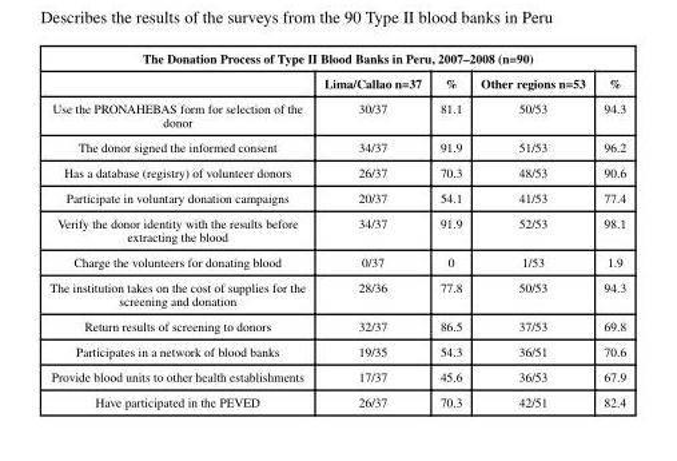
<table><thead><tr><td colspan="5">The Donation Process of Type II Blood Banks in Peru, 2007–2008 (n=90)</td></tr><tr><td></td><td>Lima/Callao n=37</td><td>%</td><td>Other regions n=53</td><td>%</td></tr></thead><tbody><tr><td>Use the PRONAHEBAS form for selection of the donor</td><td>30/37</td><td>81.1</td><td>50/53</td><td>94.3</td></tr><tr><td>The donor signed the informed consent</td><td>34/37</td><td>91.9</td><td>51/53</td><td>96.2</td></tr><tr><td>Has a database (registry) of volunteer donors</td><td>26/37</td><td>70.3</td><td>48/53</td><td>90.6</td></tr><tr><td>Participate in voluntary donation campaigns</td><td>20/37</td><td>54.1</td><td>41/53</td><td>77.4</td></tr><tr><td>Verify the donor identity with the results before extracting the blood</td><td>34/37</td><td>91.9</td><td>52/53</td><td>98.1</td></tr><tr><td>Charge the volunteers for donating blood</td><td>0/37</td><td>0</td><td>1/53</td><td>1.9</td></tr><tr><td>The institution takes on the cost of supplies for the screening and donation</td><td>28/36</td><td>77.8</td><td>50/53</td><td>94.3</td></tr><tr><td>Return results of screening to donors</td><td>32/37</td><td>86.5</td><td>37/53</td><td>69.8</td></tr><tr><td>Participates in a network of blood banks</td><td>19/35</td><td>54.3</td><td>36/51</td><td>70.6</td></tr><tr><td>Provide blood units to other health establishments</td><td>17/37</td><td>45.6</td><td>36/53</td><td>67.9</td></tr><tr><td>Have participated in the PEVED</td><td>26/37</td><td>70.3</td><td>42/51</td><td>82.4</td></tr></tbody></table>